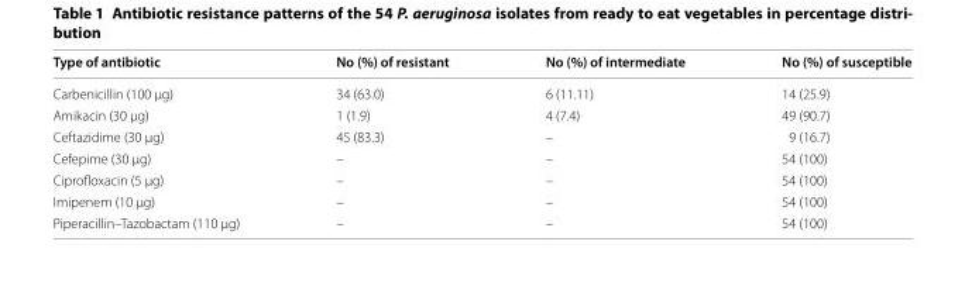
<table><thead><tr><td>Type of antibiotic</td><td>No (%) of resistant</td><td>No (%) of intermediate</td><td>No (%) of susceptible</td></tr></thead><tbody><tr><td>Carbenicillin (100 µg)</td><td>34 (63.0)</td><td>6 (11.11)</td><td>14 (25.9)</td></tr><tr><td>Amikacin (30 µg)</td><td>1 (1.9)</td><td>4 (7.4)</td><td>49 (90.7)</td></tr><tr><td>Ceftazidime (30 µg)</td><td>45 (83.3)</td><td>–</td><td>9 (16.7)</td></tr><tr><td>Cefepime (30 µg)</td><td>–</td><td>–</td><td>54 (100)</td></tr><tr><td>Ciprofloxacin (5 µg)</td><td>–</td><td>–</td><td>54 (100)</td></tr><tr><td>Imipenem (10 µg)</td><td>–</td><td>–</td><td>54 (100)</td></tr><tr><td>Piperacillin–Tazobactam (110 µg)</td><td>–</td><td>–</td><td>54 (100)</td></tr></tbody></table>